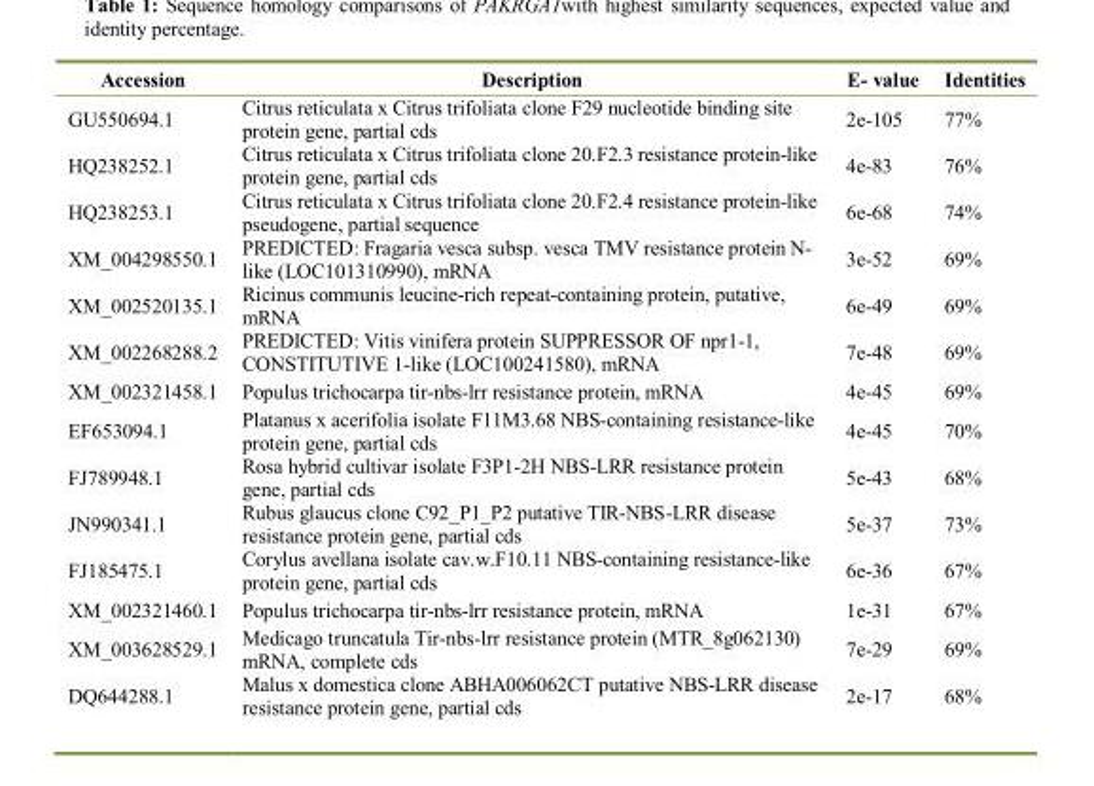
<table><thead><tr><td>Accession</td><td>Description</td><td>E- value</td><td>Identities</td></tr></thead><tbody><tr><td>GU550694.1</td><td>Citrus reticulata x Citrus trifoliata clone F29 nucleotide binding site protein gene, partial cds</td><td>2e-105</td><td>77%</td></tr><tr><td>HQ238252.1</td><td>Citrus reticulata x Citrus trifoliata clone 20.F2.3 resistance protein-like protein gene, partial cds</td><td>4e-83</td><td>76%</td></tr><tr><td>HQ238253.1</td><td>Citrus reticulata x Citrus trifoliata clone 20.F2.4 resistance protein-like pseudogene, partial sequence</td><td>6e-68</td><td>74%</td></tr><tr><td>XM_004298550.1</td><td>PREDICTED: Fragaria vesca subsp. vesca TMV resistance protein N- like (LOC101310990), mRNA</td><td>3e-52</td><td>69%</td></tr><tr><td>XM_002520135.1</td><td>Ricinus communis leucine-rich repeat-containing protein, putative, mRNA</td><td>6e-49</td><td>69%</td></tr><tr><td>XM_002268288.2</td><td>PREDICTED: Vitis vinifera protein SUPPRESSOR OF npr1-1, CONSTITUTIVE 1-like (LOC100241580), mRNA</td><td>7e-48</td><td>69%</td></tr><tr><td>XM_002321458.1</td><td>Populus trichocarpa tir-nbs-lrr resistance protein, mRNA</td><td>4e-45</td><td>69%</td></tr><tr><td>EF653094.1</td><td>Platanus x acerifolia isolate F11M3.68 NBS-containing resistance-like protein gene, partial cds</td><td>4e-45</td><td>70%</td></tr><tr><td>FJ789948.1</td><td>Rosa hybrid cultivar isolate F3P1-2H NBS-LRR resistance protein gene, partial cds</td><td>5e-43</td><td>68%</td></tr><tr><td>JN990341.1</td><td>Rubus glaucus clone C92_P1_P2 putative TIR-NBS-LRR disease resistance protein gene, partial cds</td><td>5e-37</td><td>73%</td></tr><tr><td>FJ185475.1</td><td>Corylus avellana isolate cav.w.F10.11 NBS-containing resistance-like protein gene, partial cds</td><td>6e-36</td><td>67%</td></tr><tr><td>XM_002321460.1</td><td>Populus trichocarpa tir-nbs-lrr resistance protein, mRNA</td><td>1e-31</td><td>67%</td></tr><tr><td>XM_003628529.1</td><td>Medicago truncatula Tir-nbs-lrr resistance protein (MTR_8g062130) mRNA, complete cds</td><td>7e-29</td><td>69%</td></tr><tr><td>DQ644288.1</td><td>Malus x domestica clone ABHA006062CT putative NBS-LRR disease resistance protein gene, partial cds</td><td>2e-17</td><td>68%</td></tr></tbody></table>